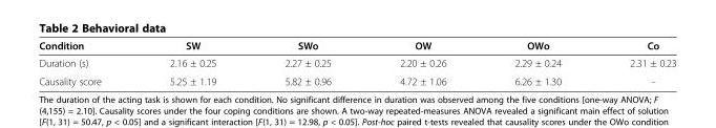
<table><thead><tr><td>Condition</td><td>SW</td><td>SWo</td><td>OW</td><td>OWo</td><td>Co</td></tr></thead><tbody><tr><td>Duration (s)</td><td>2.16 ± 0.25</td><td>2.27 ± 0.25</td><td>2.20 ± 0.26</td><td>2.29 ± 0.24</td><td>2.31 ± 0.23</td></tr><tr><td>Causality score</td><td>5.25 ± 1.19</td><td>5.82 ± 0.96</td><td>4.72 ± 1.06</td><td>6.26 ± 1.30</td><td>-</td></tr></tbody></table>